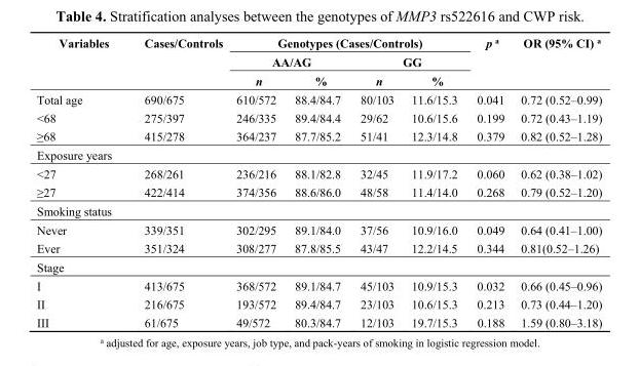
<table><thead><tr><td rowspan="3">Variables</td><td rowspan="3">Cases/Controls</td><td colspan="4">Genotypes (Cases/Controls)</td><td rowspan="3">p <sup>a</sup></td><td rowspan="3">OR (95% CI) <sup>a</sup></td></tr><tr><td colspan="2">AA/AG</td><td colspan="2">GG</td></tr><tr><td>n</td><td>%</td><td>n</td><td>%</td></tr></thead><tbody><tr><td>Total age</td><td>690/675</td><td>610/572</td><td>88.4/84.7</td><td>80/103</td><td>11.6/15.3</td><td>0.041</td><td>0.72 (0.52–0.99)</td></tr><tr><td>&lt;68</td><td>275/397</td><td>246/335</td><td>89.4/84.4</td><td>29/62</td><td>10.6/15.6</td><td>0.199</td><td>0.72 (0.43–1.19)</td></tr><tr><td>≥68</td><td>415/278</td><td>364/237</td><td>87.7/85.2</td><td>51/41</td><td>12.3/14.8</td><td>0.379</td><td>0.82 (0.52–1.28)</td></tr><tr><td colspan="8">Exposure years</td></tr><tr><td>&lt;27</td><td>268/261</td><td>236/216</td><td>88.1/82.8</td><td>32/45</td><td>11.9/17.2</td><td>0.060</td><td>0.62 (0.38–1.02)</td></tr><tr><td>≥27</td><td>422/414</td><td>374/356</td><td>88.6/86.0</td><td>48/58</td><td>11.4/14.0</td><td>0.268</td><td>0.79 (0.52–1.20)</td></tr><tr><td colspan="8">Smoking status</td></tr><tr><td>Never</td><td>339/351</td><td>302/295</td><td>89.1/84.0</td><td>37/56</td><td>10.9/16.0</td><td>0.049</td><td>0.64 (0.41–1.00)</td></tr><tr><td>Ever</td><td>351/324</td><td>308/277</td><td>87.8/85.5</td><td>43/47</td><td>12.2/14.5</td><td>0.344</td><td>0.81(0.52–1.26)</td></tr><tr><td colspan="8">Stage</td></tr><tr><td>I</td><td>413/675</td><td>368/572</td><td>89.1/84.7</td><td>45/103</td><td>10.9/15.3</td><td>0.032</td><td>0.66 (0.45–0.96)</td></tr><tr><td>II</td><td>216/675</td><td>193/572</td><td>89.4/84.7</td><td>23/103</td><td>10.6/15.3</td><td>0.213</td><td>0.73 (0.44–1.20)</td></tr><tr><td>III</td><td>61/675</td><td>49/572</td><td>80.3/84.7</td><td>12/103</td><td>19.7/15.3</td><td>0.188</td><td>1.59 (0.80–3.18)</td></tr></tbody></table>